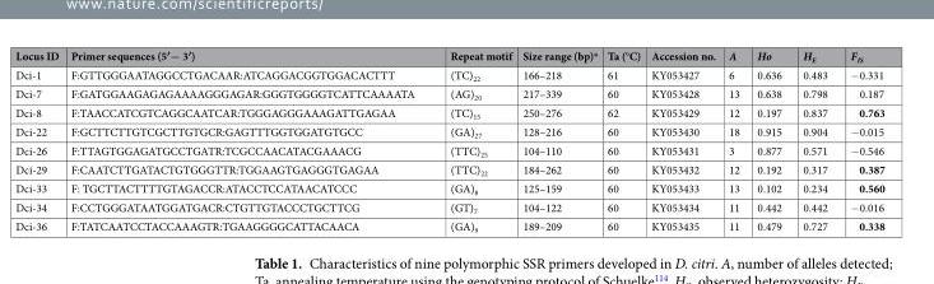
<table><thead><tr><td>Locus ID</td><td>Primer sequences (5′− 3′)</td><td>Repeat motif</td><td>Size range (bp)<sup>a</sup></td><td>Ta (°C)</td><td>Accession no.</td><td>A</td><td>Ho</td><td>H<sub>E</sub></td><td>F<sub>IS</sub></td></tr></thead><tbody><tr><td>Dci-1</td><td>F:GTTGGGAATAGGCCTGACAAR:ATCAGGACGGTGGACACTTT</td><td>(TC)<sub>22</sub></td><td>166–218</td><td>61</td><td>KY053427</td><td>6</td><td>0.636</td><td>0.483</td><td>−0.331</td></tr><tr><td>Dci-7</td><td>F:GATGGAAGAGAGAAAAGGGAGAR:GGGTGGGGTCATTCAAAATA</td><td>(AG)<sub>20</sub></td><td>217–339</td><td>60</td><td>KY053428</td><td>13</td><td>0.638</td><td>0.798</td><td>0.187</td></tr><tr><td>Dci-8</td><td>F:TAACCATCGTCAGGCAATCAR:TGGGAGGGAAAGATTGAGAA</td><td>(TC)<sub>15</sub></td><td>250–276</td><td>62</td><td>KY053429</td><td>12</td><td>0.197</td><td>0.837</td><td>0.763</td></tr><tr><td>Dci-22</td><td>F:GCTTCTTGTCGCTTGTGCR:GAGTTTGGTGGATGTGCC</td><td>(GA)<sub>27</sub></td><td>128–216</td><td>60</td><td>KY053430</td><td>18</td><td>0.915</td><td>0.904</td><td>−0.015</td></tr><tr><td>Dci-26</td><td>F:TTAGTGGAGATGCCTGATR:TCGCCAACATACGAAACG</td><td>(TTC)<sub>25</sub></td><td>104–110</td><td>60</td><td>KY053431</td><td>3</td><td>0.877</td><td>0.571</td><td>−0.546</td></tr><tr><td>Dci-29</td><td>F:CAATCTTGATACTGTGGGTTR:TGGAAGTGAGGGTGAGAA</td><td>(TTC)<sub>22</sub></td><td>184–262</td><td>60</td><td>KY053432</td><td>12</td><td>0.192</td><td>0.317</td><td>0.387</td></tr><tr><td>Dci-33</td><td>F: TGCTTACTTTTGTAGACCR:ATACCTCCATAACATCCC</td><td>(GA)<sub>8</sub></td><td>125–159</td><td>60</td><td>KY053433</td><td>13</td><td>0.102</td><td>0.234</td><td>0.560</td></tr><tr><td>Dci-34</td><td>F:CCTGGGATAATGGATGACR:CTGTTGTACCCTGCTTCG</td><td>(GT)<sub>7</sub></td><td>104–122</td><td>60</td><td>KY053434</td><td>11</td><td>0.442</td><td>0.442</td><td>−0.016</td></tr><tr><td>Dci-36</td><td>F:TATCAATCCTACCAAAGTR:TGAAGGGGCATTACAACA</td><td>(GA)<sub>9</sub></td><td>189–209</td><td>60</td><td>KY053435</td><td>11</td><td>0.479</td><td>0.727</td><td>0.338</td></tr></tbody></table>